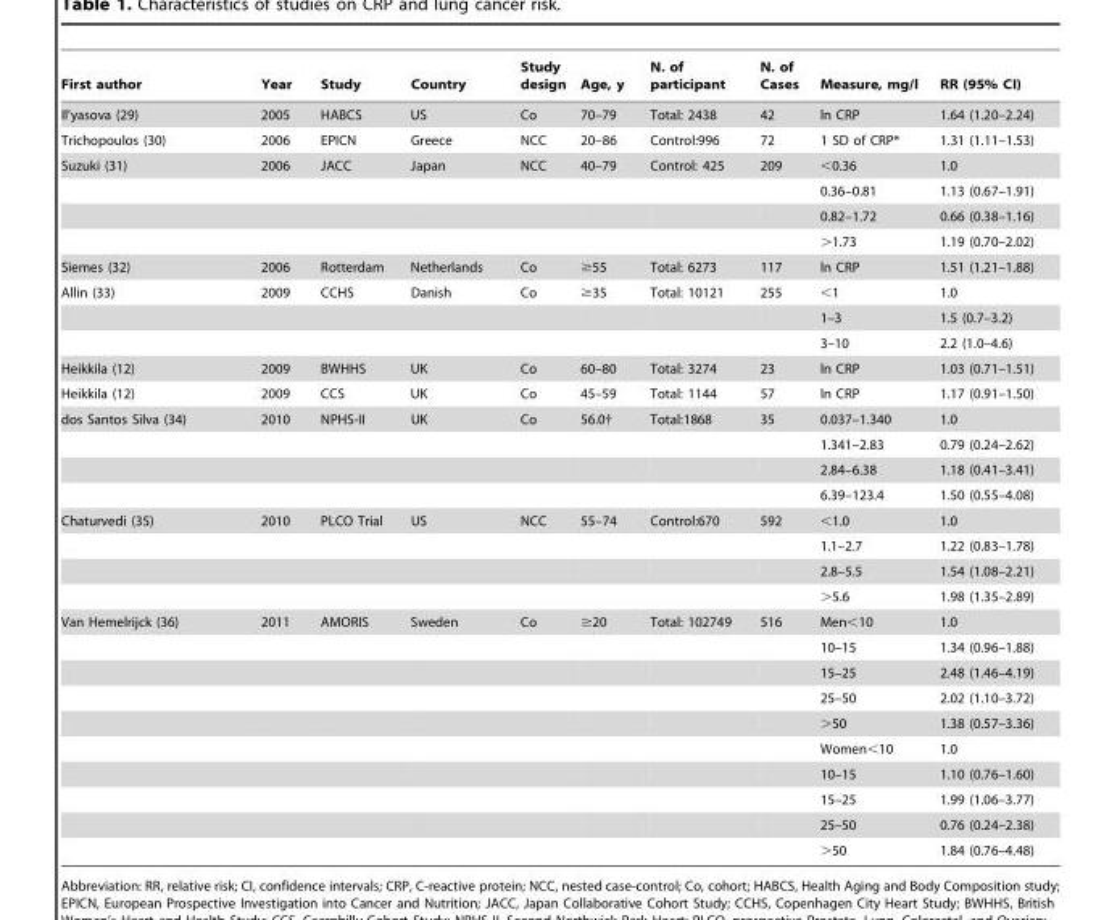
<table><thead><tr><td>First author</td><td>Year</td><td>Study</td><td>Country</td><td>Study design</td><td>Age, y</td><td>N. of participant</td><td>N. of Cases</td><td>Measure, mg/l</td><td>RR (95% CI)</td></tr></thead><tbody><tr><td>Il’yasova (29)</td><td>2005</td><td>HABCS</td><td>US</td><td>Co</td><td>70–79</td><td>Total: 2438</td><td>42</td><td>ln CRP</td><td>1.64 (1.20–2.24)</td></tr><tr><td>Trichopoulos (30)</td><td>2006</td><td>EPICN</td><td>Greece</td><td>NCC</td><td>20–86</td><td>Control:996</td><td>72</td><td>1 SD of CRP*</td><td>1.31 (1.11–1.53)</td></tr><tr><td rowspan="4">Suzuki (31)</td><td>2006</td><td>JACC</td><td>Japan</td><td>NCC</td><td>40–79</td><td>Control: 425</td><td>209</td><td>&lt;0.36</td><td>1.0</td></tr><tr><td></td><td></td><td></td><td></td><td></td><td></td><td></td><td>0.36–0.81</td><td>1.13 (0.67–1.91)</td></tr><tr><td></td><td></td><td></td><td></td><td></td><td></td><td></td><td>0.82–1.72</td><td>0.66 (0.38–1.16)</td></tr><tr><td></td><td></td><td></td><td></td><td></td><td></td><td></td><td>&gt;1.73</td><td>1.19 (0.70–2.02)</td></tr><tr><td>Siemes (32)</td><td>2006</td><td>Rotterdam</td><td>Netherlands</td><td>Co</td><td>≥55</td><td>Total: 6273</td><td>117</td><td>ln CRP</td><td>1.51 (1.21–1.88)</td></tr><tr><td rowspan="3">Allin (33)</td><td>2009</td><td>CCHS</td><td>Danish</td><td>Co</td><td>≥35</td><td>Total: 10121</td><td>255</td><td>&lt;1</td><td>1.0</td></tr><tr><td></td><td></td><td></td><td></td><td></td><td></td><td></td><td>1–3</td><td>1.5 (0.7–3.2)</td></tr><tr><td></td><td></td><td></td><td></td><td></td><td></td><td></td><td>3–10</td><td>2.2 (1.0–4.6)</td></tr><tr><td>Heikkila (12)</td><td>2009</td><td>BWHHS</td><td>UK</td><td>Co</td><td>60–80</td><td>Total: 3274</td><td>23</td><td>ln CRP</td><td>1.03 (0.71–1.51)</td></tr><tr><td>Heikkila (12)</td><td>2009</td><td>CCS</td><td>UK</td><td>Co</td><td>45–59</td><td>Total: 1144</td><td>57</td><td>ln CRP</td><td>1.17 (0.91–1.50)</td></tr><tr><td rowspan="4">dos Santos Silva (34)</td><td>2010</td><td>NPHS-II</td><td>UK</td><td>Co</td><td>56.0†</td><td>Total:1868</td><td>35</td><td>0.037–1.340</td><td>1.0</td></tr><tr><td></td><td></td><td></td><td></td><td></td><td></td><td></td><td>1.341–2.83</td><td>0.79 (0.24–2.62)</td></tr><tr><td></td><td></td><td></td><td></td><td></td><td></td><td></td><td>2.84–6.38</td><td>1.18 (0.41–3.41)</td></tr><tr><td></td><td></td><td></td><td></td><td></td><td></td><td></td><td>6.39–123.4</td><td>1.50 (0.55–4.08)</td></tr><tr><td rowspan="4">Chaturvedi (35)</td><td>2010</td><td>PLCO Trial</td><td>US</td><td>NCC</td><td>55–74</td><td>Control:670</td><td>592</td><td>&lt;1.0</td><td>1.0</td></tr><tr><td></td><td></td><td></td><td></td><td></td><td></td><td></td><td>1.1–2.7</td><td>1.22 (0.83–1.78)</td></tr><tr><td></td><td></td><td></td><td></td><td></td><td></td><td></td><td>2.8–5.5</td><td>1.54 (1.08–2.21)</td></tr><tr><td></td><td></td><td></td><td></td><td></td><td></td><td></td><td>&gt;5.6</td><td>1.98 (1.35–2.89)</td></tr><tr><td rowspan="10">Van Hemelrijck (36)</td><td>2011</td><td>AMORIS</td><td>Sweden</td><td>Co</td><td>≥20</td><td>Total: 102749</td><td>516</td><td>Men&lt;10</td><td>1.0</td></tr><tr><td></td><td></td><td></td><td></td><td></td><td></td><td></td><td>10–15</td><td>1.34 (0.96–1.88)</td></tr><tr><td></td><td></td><td></td><td></td><td></td><td></td><td></td><td>15–25</td><td>2.48 (1.46–4.19)</td></tr><tr><td></td><td></td><td></td><td></td><td></td><td></td><td></td><td>25–50</td><td>2.02 (1.10–3.72)</td></tr><tr><td></td><td></td><td></td><td></td><td></td><td></td><td></td><td>&gt;50</td><td>1.38 (0.57–3.36)</td></tr><tr><td></td><td></td><td></td><td></td><td></td><td></td><td></td><td>Women&lt;10</td><td>1.0</td></tr><tr><td></td><td></td><td></td><td></td><td></td><td></td><td></td><td>10–15</td><td>1.10 (0.76–1.60)</td></tr><tr><td></td><td></td><td></td><td></td><td></td><td></td><td></td><td>15–25</td><td>1.99 (1.06–3.77)</td></tr><tr><td></td><td></td><td></td><td></td><td></td><td></td><td></td><td>25–50</td><td>0.76 (0.24–2.38)</td></tr><tr><td></td><td></td><td></td><td></td><td></td><td></td><td></td><td>&gt;50</td><td>1.84 (0.76–4.48)</td></tr></tbody></table>